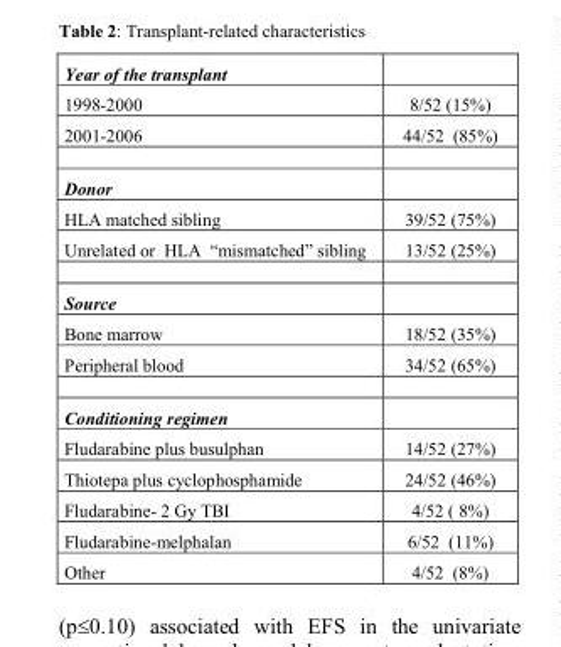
<table><tbody><tr><td colspan="2">Year of the transplant</td></tr><tr><td>1998-2000</td><td>8/52 (15%)</td></tr><tr><td>2001-2006</td><td>44/52 (85%)</td></tr><tr><td colspan="2">Donor</td></tr><tr><td>HLA matched sibling</td><td>39/52 (75%)</td></tr><tr><td>Unrelated or HLA “mismatched” sibling</td><td>13/52 (25%)</td></tr><tr><td colspan="2">Source</td></tr><tr><td>Bone marrow</td><td>18/52 (35%)</td></tr><tr><td>Peripheral blood</td><td>34/52 (65%)</td></tr><tr><td colspan="2">Conditioning regimen</td></tr><tr><td>Fludarabine plus busulphan</td><td>14/52 (27%)</td></tr><tr><td>Thiotepa plus cyclophosphamide</td><td>24/52 (46%)</td></tr><tr><td>Fludarabine- 2 Gy TBI</td><td>4/52 ( 8%)</td></tr><tr><td>Fludarabine-melphalan</td><td>6/52 (11%)</td></tr><tr><td>Other</td><td>4/52 (8%)</td></tr></tbody></table>